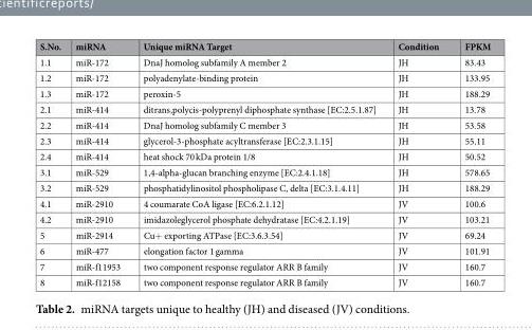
<table><thead><tr><td>S.No.</td><td>miRNA</td><td>Unique miRNA Target</td><td>Condition</td><td>FPKM</td></tr></thead><tbody><tr><td>1.1</td><td>miR-172</td><td>DnaJ homolog subfamily A member 2</td><td>JH</td><td>83.43</td></tr><tr><td>1.2</td><td>miR-172</td><td>polyadenylate-binding protein</td><td>JH</td><td>133.95</td></tr><tr><td>1.3</td><td>miR-172</td><td>peroxin-5</td><td>JH</td><td>188.29</td></tr><tr><td>2.1</td><td>miR-414</td><td>ditrans,polycis-polyprenyl diphosphate synthase [EC:2.5.1.87]</td><td>JH</td><td>13.78</td></tr><tr><td>2.2</td><td>miR-414</td><td>DnaJ homolog subfamily C member 3</td><td>JH</td><td>53.58</td></tr><tr><td>2.3</td><td>miR-414</td><td>glycerol-3-phosphate acyltransferase [EC:2.3.1.15]</td><td>JH</td><td>55.11</td></tr><tr><td>2.4</td><td>miR-414</td><td>heat shock 70 kDa protein 1/8</td><td>JH</td><td>50.52</td></tr><tr><td>3.1</td><td>miR-529</td><td>1,4-alpha-glucan branching enzyme [EC:2.4.1.18]</td><td>JH</td><td>578.65</td></tr><tr><td>3.2</td><td>miR-529</td><td>phosphatidylinositol phospholipase C, delta [EC:3.1.4.11]</td><td>JH</td><td>188.29</td></tr><tr><td>4.1</td><td>miR-2910</td><td>4 coumarate CoA ligase [EC:6.2.1.12]</td><td>JV</td><td>100.6</td></tr><tr><td>4.2</td><td>miR-2910</td><td>imidazoleglycerol phosphate dehydratase [EC:4.2.1.19]</td><td>JV</td><td>103.21</td></tr><tr><td>5</td><td>miR-2914</td><td>Cu+ exporting ATPase [EC:3.6.3.54]</td><td>JV</td><td>69.24</td></tr><tr><td>6</td><td>miR-477</td><td>elongation factor 1 gamma</td><td>JV</td><td>101.91</td></tr><tr><td>7</td><td>miR-f11953</td><td>two component response regulator ARR B family</td><td>JV</td><td>160.7</td></tr><tr><td>8</td><td>miR-f12158</td><td>two component response regulator ARR B family</td><td>JV</td><td>160.7</td></tr></tbody></table>